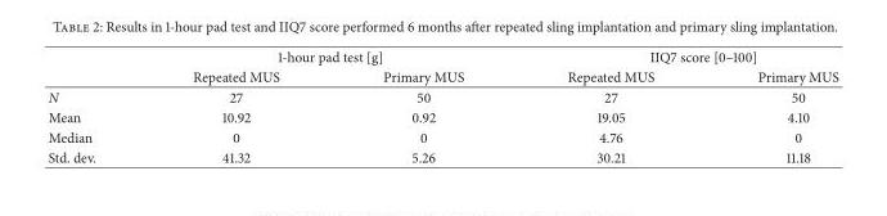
<table><thead><tr><td rowspan="2"></td><td colspan="2">1-hour pad test [g]</td><td colspan="2">IIQ7 score [0–100]</td></tr><tr><td>Repeated MUS</td><td>Primary MUS</td><td>Repeated MUS</td><td>Primary MUS</td></tr></thead><tbody><tr><td>N</td><td>27</td><td>50</td><td>27</td><td>50</td></tr><tr><td>Mean</td><td>10.92</td><td>0.92</td><td>19.05</td><td>4.10</td></tr><tr><td>Median</td><td>0</td><td>0</td><td>4.76</td><td>0</td></tr><tr><td>Std. dev.</td><td>41.32</td><td>5.26</td><td>30.21</td><td>11.18</td></tr></tbody></table>